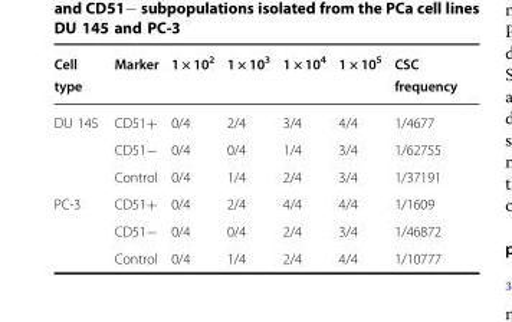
<table><thead><tr><td>Cell type</td><td>Marker</td><td>1 × 10<sup>2</sup></td><td>1 × 10<sup>3</sup></td><td>1 × 10<sup>4</sup></td><td>1 × 10<sup>5</sup></td><td>CSC frequency</td></tr></thead><tbody><tr><td rowspan="3">DU 145</td><td>CD51+</td><td>0/4</td><td>2/4</td><td>3/4</td><td>4/4</td><td>1/4677</td></tr><tr><td>CD51−</td><td>0/4</td><td>0/4</td><td>1/4</td><td>3/4</td><td>1/62755</td></tr><tr><td>Control</td><td>0/4</td><td>1/4</td><td>2/4</td><td>3/4</td><td>1/37191</td></tr><tr><td rowspan="3">PC-3</td><td>CD51+</td><td>0/4</td><td>2/4</td><td>4/4</td><td>4/4</td><td>1/1609</td></tr><tr><td>CD51−</td><td>0/4</td><td>0/4</td><td>2/4</td><td>3/4</td><td>1/46872</td></tr><tr><td>Control</td><td>0/4</td><td>1/4</td><td>2/4</td><td>4/4</td><td>1/10777</td></tr></tbody></table>